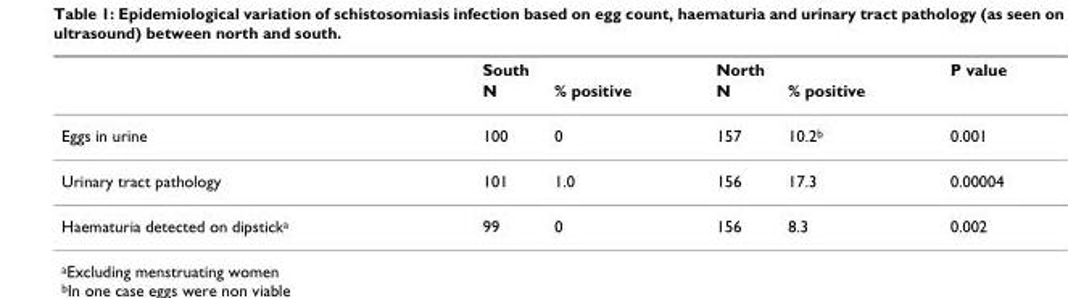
<table><thead><tr><td rowspan="2"></td><td colspan="2">South</td><td colspan="2">North</td><td rowspan="2">P value</td></tr><tr><td>N</td><td>% positive</td><td>N</td><td>% positive</td></tr></thead><tbody><tr><td>Eggs in urine</td><td>100</td><td>0</td><td>157</td><td>10.2<sup>b</sup></td><td>0.001</td></tr><tr><td>Urinary tract pathology</td><td>101</td><td>1.0</td><td>156</td><td>17.3</td><td>0.00004</td></tr><tr><td>Haematuria detected on dipstick<sup>a</sup></td><td>99</td><td>0</td><td>156</td><td>8.3</td><td>0.002</td></tr></tbody></table>